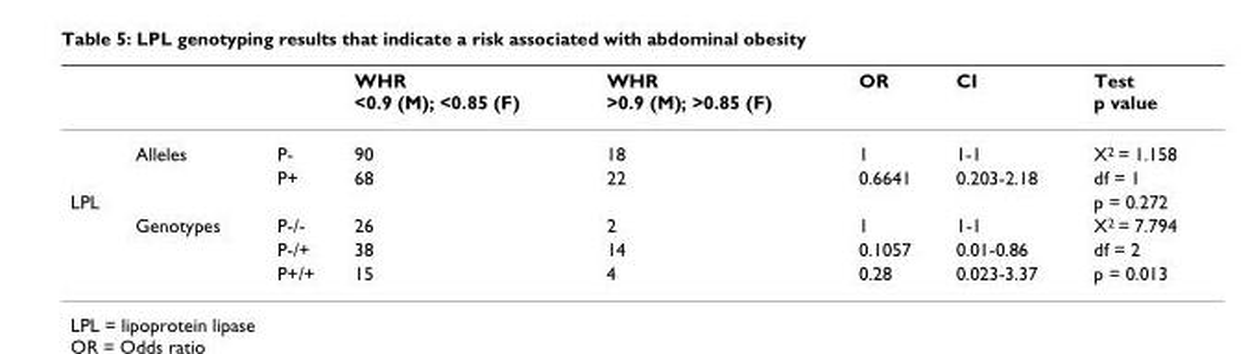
<table><thead><tr><td></td><td></td><td></td><td>WHR &lt;0.9 (M); &lt;0.85 (F)</td><td>WHR &gt;0.9 (M); &gt;0.85 (F)</td><td>OR</td><td>CI</td><td>Test p value</td></tr></thead><tbody><tr><td></td><td>Alleles</td><td>P-</td><td>90</td><td>18</td><td>1</td><td>1-1</td><td>X<sup>2</sup> = 1.158</td></tr><tr><td></td><td></td><td>P+</td><td>68</td><td>22</td><td>0.6641</td><td>0.203-2.18</td><td>df = 1</td></tr><tr><td rowspan="4">LPL</td><td></td><td></td><td></td><td></td><td></td><td></td><td>p = 0.272</td></tr><tr><td>Genotypes</td><td>P-/-</td><td>26</td><td>2</td><td>1</td><td>1-1</td><td>X<sup>2</sup> = 7.794</td></tr><tr><td></td><td>P-/+</td><td>38</td><td>14</td><td>0.1057</td><td>0.01-0.86</td><td>df = 2</td></tr><tr><td></td><td>P+/+</td><td>15</td><td>4</td><td>0.28</td><td>0.023-3.37</td><td>p = 0.013</td></tr></tbody></table>